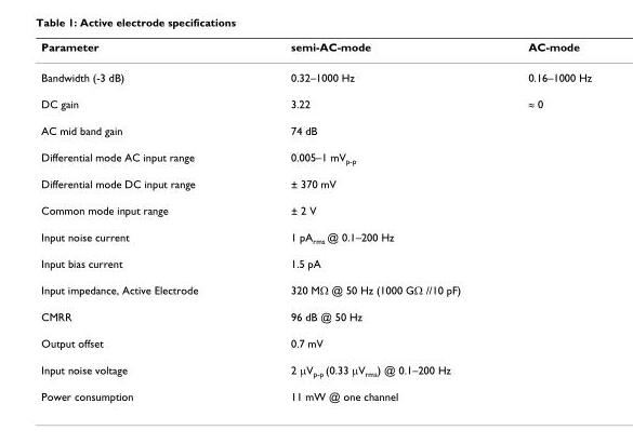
<table><thead><tr><td>Parameter</td><td>semi-AC-mode</td><td>AC-mode</td></tr></thead><tbody><tr><td>Bandwidth (-3 dB)</td><td>0.32–1000 Hz</td><td>0.16–1000 Hz</td></tr><tr><td>DC gain</td><td>3.22</td><td>≈ 0</td></tr><tr><td>AC mid band gain</td><td colspan="2">74 dB</td></tr><tr><td>Differential mode AC input range</td><td colspan="2">0.005–1 mV<sub>p-p</sub></td></tr><tr><td>Differential mode DC input range</td><td colspan="2">± 370 mV</td></tr><tr><td>Common mode input range</td><td colspan="2">± 2 V</td></tr><tr><td>Input noise current</td><td colspan="2">1 pA<sub>rms</sub> @ 0.1–200 Hz</td></tr><tr><td>Input bias current</td><td colspan="2">1.5 pA</td></tr><tr><td>Input impedance, Active Electrode</td><td colspan="2">320 MΩ @ 50 Hz (1000 GΩ //10 pF)</td></tr><tr><td>CMRR</td><td colspan="2">96 dB @ 50 Hz</td></tr><tr><td>Output offset</td><td colspan="2">0.7 mV</td></tr><tr><td>Input noise voltage</td><td colspan="2">2 µV<sub>p-p</sub> (0.33 µV<sub>rms</sub>) @ 0.1–200 Hz</td></tr><tr><td>Power consumption</td><td colspan="2">11 mW @ one channel</td></tr></tbody></table>